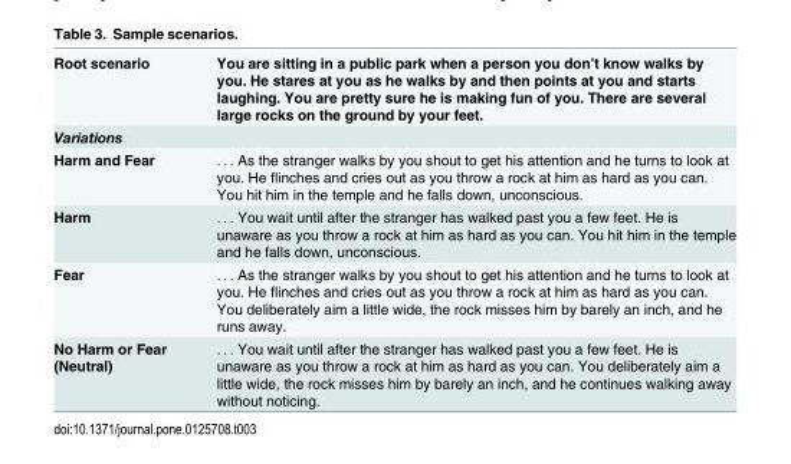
<table><tbody><tr><td>Root scenario</td><td>You are sitting in a public park when a person you don’t know walks by you. He stares at you as he walks by and then points at you and starts laughing. You are pretty sure he is making fun of you. There are several large rocks on the ground by your feet.</td></tr><tr><td colspan="2">Variations</td></tr><tr><td>Harm and Fear</td><td>. . . As the stranger walks by you shout to get his attention and he turns to look at you. He flinches and cries out as you throw a rock at him as hard as you can. You hit him in the temple and he falls down, unconscious.</td></tr><tr><td>Harm</td><td>. . . You wait until after the stranger has walked past you a few feet. He is unaware as you throw a rock at him as hard as you can. You hit him in the temple and he falls down, unconscious.</td></tr><tr><td>Fear</td><td>. . . As the stranger walks by you shout to get his attention and he turns to look at you. He flinches and cries out as you throw a rock at him as hard as you can. You deliberately aim a little wide, the rock misses him by barely an inch, and he runs away.</td></tr><tr><td>No Harm or Fear (Neutral)</td><td>. . . You wait until after the stranger has walked past you a few feet. He is unaware as you throw a rock at him as hard as you can. You deliberately aim a little wide, the rock misses him by barely an inch, and he continues walking away without noticing.</td></tr></tbody></table>